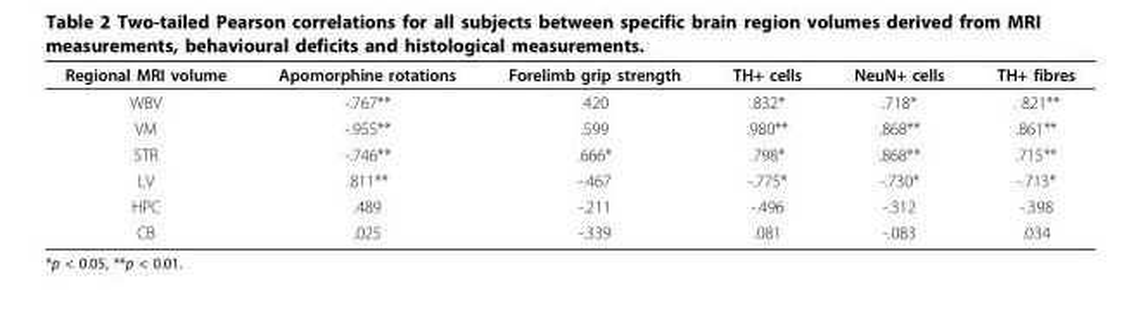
<table><thead><tr><td>Regional MRI volume</td><td>Apomorphine rotations</td><td>Forelimb grip strength</td><td>TH+ cells</td><td>NeuN+ cells</td><td>TH+ fibres</td></tr></thead><tbody><tr><td>WBV</td><td>-.767**</td><td>.420</td><td>.832*</td><td>.718*</td><td>. 821**</td></tr><tr><td>VM</td><td>-.955**</td><td>.599</td><td>.980**</td><td>.868**</td><td>.861**</td></tr><tr><td>STR</td><td>-.746**</td><td>.666*</td><td>.798*</td><td>.868**</td><td>.715**</td></tr><tr><td>LV</td><td>.811**</td><td>-.467</td><td>-.775*</td><td>-.730*</td><td>-.713*</td></tr><tr><td>HPC</td><td>.489</td><td>-.211</td><td>-.496</td><td>-.312</td><td>-.398</td></tr><tr><td>CB</td><td>.025</td><td>-.339</td><td>.081</td><td>-.083</td><td>.034</td></tr></tbody></table>